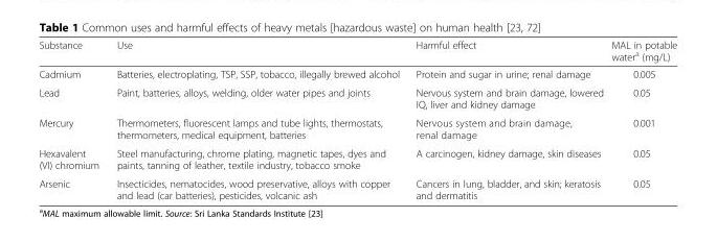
<table><thead><tr><td>Substance</td><td>Use</td><td>Harmful effect</td><td>MAL in potable water<sup>a</sup> (mg/L)</td></tr></thead><tbody><tr><td>Cadmium</td><td>Batteries, electroplating, TSP, SSP, tobacco, illegally brewed alcohol</td><td>Protein and sugar in urine; renal damage</td><td>0.005</td></tr><tr><td>Lead</td><td>Paint, batteries, alloys, welding, older water pipes and joints</td><td>Nervous system and brain damage, lowered IQ, liver and kidney damage</td><td>0.05</td></tr><tr><td>Mercury</td><td>Thermometers, fluorescent lamps and tube lights, thermostats, thermometers, medical equipment, batteries</td><td>Nervous system and brain damage, renal damage</td><td>0.001</td></tr><tr><td>Hexavalent (VI) chromium</td><td>Steel manufacturing, chrome plating, magnetic tapes, dyes and paints, tanning of leather, textile industry, tobacco smoke</td><td>A carcinogen, kidney damage, skin diseases</td><td>0.05</td></tr><tr><td>Arsenic</td><td>Insecticides, nematocides, wood preservative, alloys with copper and lead (car batteries), pesticides, volcanic ash</td><td>Cancers in lung, bladder, and skin; keratosis and dermatitis</td><td>0.05</td></tr></tbody></table>